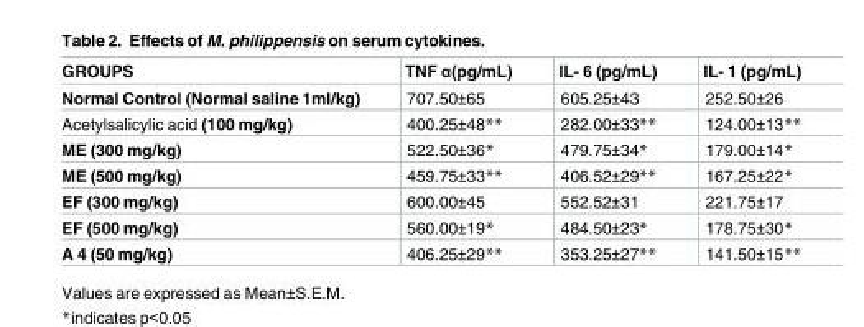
<table><thead><tr><td>GROUPS</td><td>TNF α(pg/mL)</td><td>IL- 6 (pg/mL)</td><td>IL- 1 (pg/mL)</td></tr></thead><tbody><tr><td>Normal Control (Normal saline 1ml/kg)</td><td>707.50±65</td><td>605.25±43</td><td>252.50±26</td></tr><tr><td>Acetylsalicylic acid (100 mg/kg)</td><td>400.25±48**</td><td>282.00±33**</td><td>124.00±13**</td></tr><tr><td>ME (300 mg/kg)</td><td>522.50±36*</td><td>479.75±34*</td><td>179.00±14*</td></tr><tr><td>ME (500 mg/kg)</td><td>459.75±33**</td><td>406.52±29**</td><td>167.25±22*</td></tr><tr><td>EF (300 mg/kg)</td><td>600.00±45</td><td>552.52±31</td><td>221.75±17</td></tr><tr><td>EF (500 mg/kg)</td><td>560.00±19*</td><td>484.50±23*</td><td>178.75±30*</td></tr><tr><td>A 4 (50 mg/kg)</td><td>406.25±29**</td><td>353.25±27**</td><td>141.50±15**</td></tr></tbody></table>